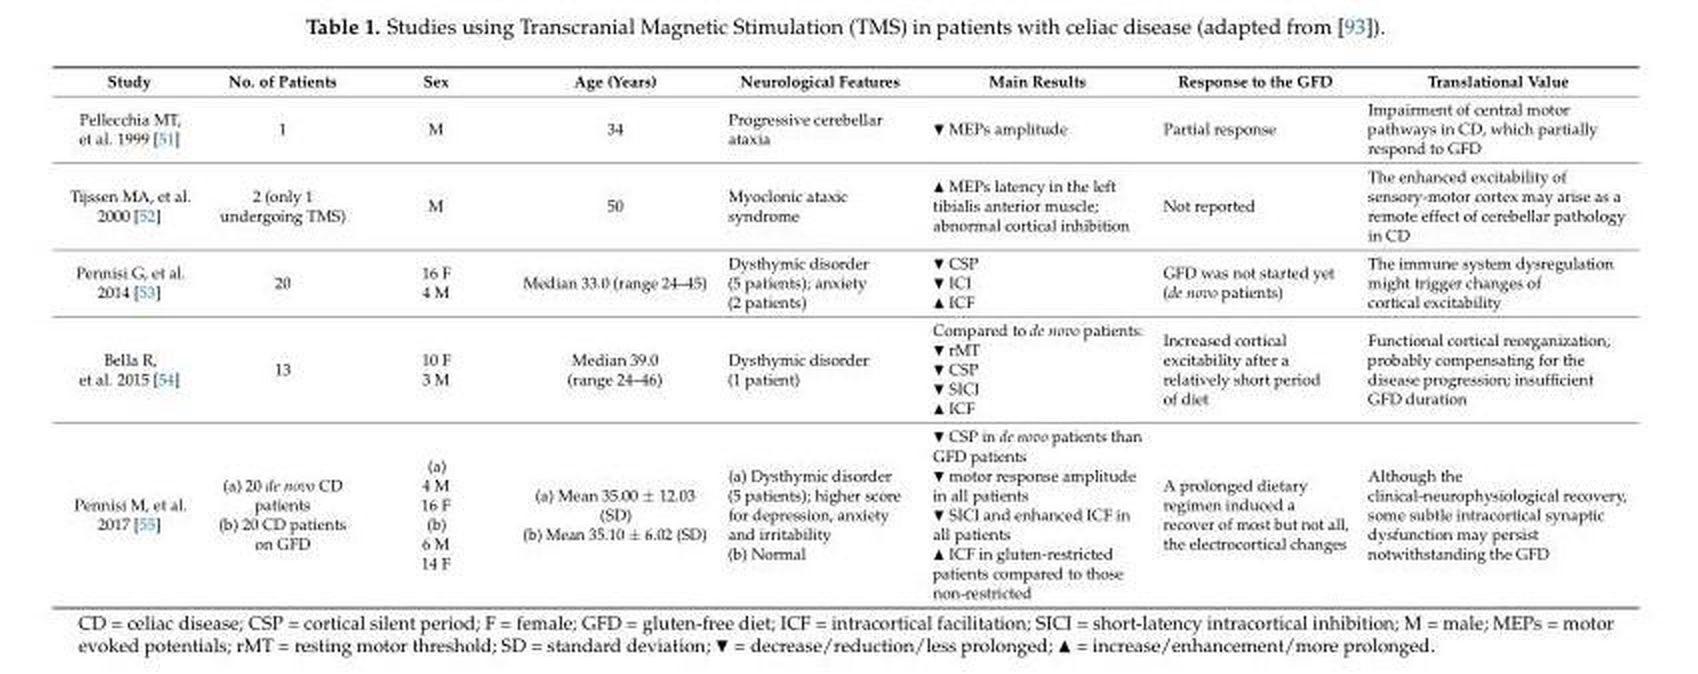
<table><thead><tr><td>Study</td><td>No. of Patients</td><td>Sex</td><td>Age (Years)</td><td>Neurological Features</td><td>Main Results</td><td>Response to the GFD</td><td>Translational Value</td></tr></thead><tbody><tr><td>Pellecchia MT, et al. 1999 [51]</td><td>1</td><td>M</td><td>34</td><td>Progressive cerebellar ataxia</td><td>▼ MEPs amplitude</td><td>Partial response</td><td>Impairment of central motor pathways in CD, which partially respond to GFD</td></tr><tr><td>Tijssen MA, et al. 2000 [52]</td><td>2 (only 1 undergoing TMS)</td><td>M</td><td>50</td><td>Myoclonic ataxic syndrome</td><td>▲ MEPs latency in the left tibialis anterior muscle; abnormal cortical inhibition</td><td>Not reported</td><td>The enhanced excitability of sensory-motor cortex may arise as a remote effect of cerebellar pathology in CD</td></tr><tr><td>Pennisi G, et al. 2014 [53]</td><td>20</td><td>16 F 4 M</td><td>Median 33.0 (range 24–45)</td><td>Dysthymic disorder (5 patients); anxiety (2 patients)</td><td>▼ CSP ▼ ICI ▲ ICF</td><td>GFD was not started yet (de novo patients)</td><td>The immune system dysregulation might trigger changes of cortical excitability</td></tr><tr><td>Bella R, et al. 2015 [54]</td><td>13</td><td>10 F 3 M</td><td>Median 39.0 (range 24–46)</td><td>Dysthymic disorder (1 patient)</td><td>Compared to de novo patients: ▼ rMT ▼ CSP ▼ SICI ▲ ICF</td><td>Increased cortical excitability after a relatively short period of diet</td><td>Functional cortical reorganization, probably compensating for the disease progression; insufficient GFD duration</td></tr><tr><td>Pennisi M, et al. 2017 [55]</td><td>(a) 20 de novo CD patients (b) 20 CD patients on GFD</td><td>(a) 4 M 16 F (b) 6 M 14 F</td><td>(a) Mean 35.00 ± 12.03 (SD) (b) Mean 35.10 ± 6.02 (SD)</td><td>(a) Dysthymic disorder (5 patients); higher score for depression, anxiety and irritability (b) Normal</td><td>▼ CSP in de novo patients than GFD patients ▼ motor response amplitude in all patients ▼ SICI and enhanced ICF in all patients ▲ ICF in gluten-restricted patients compared to those non-restricted</td><td>A prolonged dietary regimen induced a recover of most but not all, the electrocortical changes</td><td>Although the clinical-neurophysiological recovery, some subtle intracortical synaptic dysfunction may persist notwithstanding the GFD</td></tr></tbody></table>